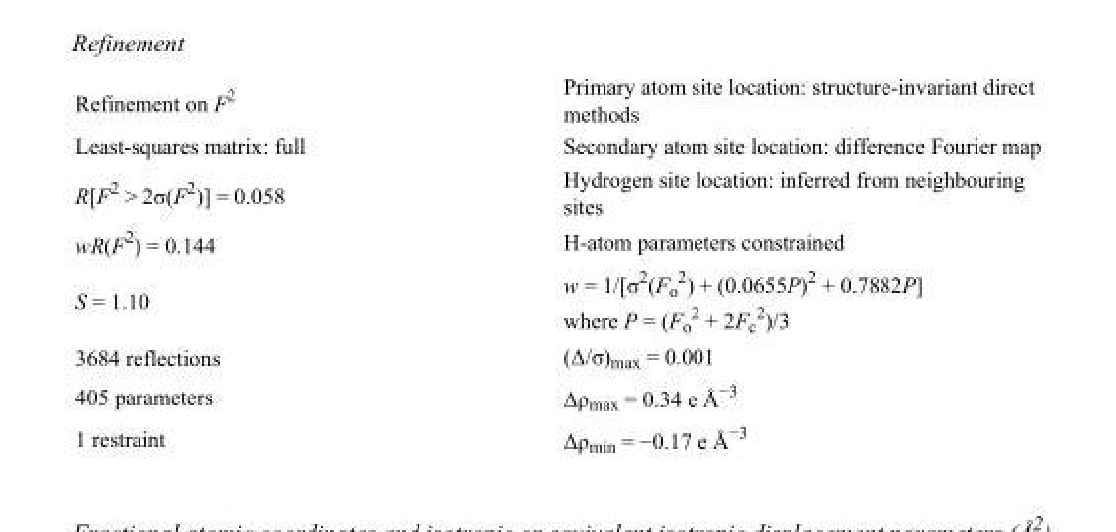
<table><tbody><tr><td>Refinement on F<sup>2</sup></td><td>Primary atom site location: structure-invariant direct methods</td></tr><tr><td>Least-squares matrix: full</td><td>Secondary atom site location: difference Fourier map</td></tr><tr><td>R[F<sup>2</sup> &gt; 2σ(F<sup>2</sup>)] = 0.058</td><td>Hydrogen site location: inferred from neighbouring sites</td></tr><tr><td>wR(F<sup>2</sup>) = 0.144</td><td>H-atom parameters constrained</td></tr><tr><td>S = 1.10</td><td>w = 1/[σ<sup>2</sup>(F<sub>o</sub> <sup>2</sup>) + (0.0655P)<sup>2</sup> + 0.7882P] where P = (F<sub>o</sub> <sup>2</sup> + 2F<sub>c</sub> <sup>2</sup>)/3</td></tr><tr><td>3684 reflections</td><td>(Δ/σ)<sub>max</sub> = 0.001</td></tr><tr><td>405 parameters</td><td>Δρ<sub>max</sub> = 0.34 e Å<sup>−3</sup></td></tr><tr><td>1 restraint</td><td>Δρ<sub>min</sub> = −0.17 e Å<sup>−3</sup></td></tr></tbody></table>